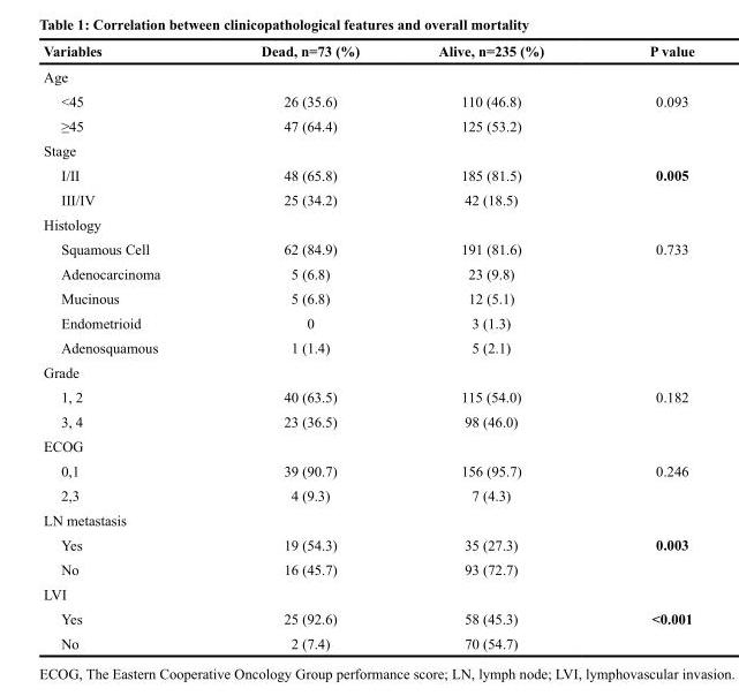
<table><thead><tr><td>Variables</td><td>Dead, n=73 (%)</td><td>Alive, n=235 (%)</td><td>P value</td></tr></thead><tbody><tr><td colspan="4">Age</td></tr><tr><td>&lt;45</td><td>26 (35.6)</td><td>110 (46.8)</td><td>0.093</td></tr><tr><td>≥45</td><td>47 (64.4)</td><td>125 (53.2)</td><td></td></tr><tr><td colspan="4">Stage</td></tr><tr><td>I/II</td><td>48 (65.8)</td><td>185 (81.5)</td><td>0.005</td></tr><tr><td>III/IV</td><td>25 (34.2)</td><td>42 (18.5)</td><td></td></tr><tr><td colspan="4">Histology</td></tr><tr><td>Squamous Cell</td><td>62 (84.9)</td><td>191 (81.6)</td><td>0.733</td></tr><tr><td>Adenocarcinoma</td><td>5 (6.8)</td><td>23 (9.8)</td><td></td></tr><tr><td>Mucinous</td><td>5 (6.8)</td><td>12 (5.1)</td><td></td></tr><tr><td>Endometrioid</td><td>0</td><td>3 (1.3)</td><td></td></tr><tr><td>Adenosquamous</td><td>1 (1.4)</td><td>5 (2.1)</td><td></td></tr><tr><td colspan="4">Grade</td></tr><tr><td>1, 2</td><td>40 (63.5)</td><td>115 (54.0)</td><td>0.182</td></tr><tr><td>3, 4</td><td>23 (36.5)</td><td>98 (46.0)</td><td></td></tr><tr><td colspan="4">ECOG</td></tr><tr><td>0,1</td><td>39 (90.7)</td><td>156 (95.7)</td><td>0.246</td></tr><tr><td>2,3</td><td>4 (9.3)</td><td>7 (4.3)</td><td></td></tr><tr><td colspan="4">LN metastasis</td></tr><tr><td>Yes</td><td>19 (54.3)</td><td>35 (27.3)</td><td>0.003</td></tr><tr><td>No</td><td>16 (45.7)</td><td>93 (72.7)</td><td></td></tr><tr><td colspan="4">LVI</td></tr><tr><td>Yes</td><td>25 (92.6)</td><td>58 (45.3)</td><td>&lt;0.001</td></tr><tr><td>No</td><td>2 (7.4)</td><td>70 (54.7)</td><td></td></tr></tbody></table>